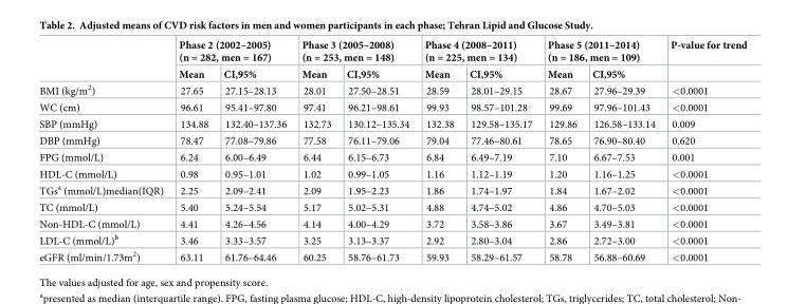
<table><thead><tr><td rowspan="2"></td><td colspan="2">Phase 2 (2002–2005) (n = 282, men = 167)</td><td colspan="2">Phase 3 (2005–2008) (n = 253, men = 148)</td><td colspan="2">Phase 4 (2008–2011) (n = 225, men = 134)</td><td colspan="2">Phase 5 (2011–2014) (n = 186, men = 109)</td><td rowspan="2">P-value for trend</td></tr><tr><td>Mean</td><td>CI,95%</td><td>Mean</td><td>CI,95%</td><td>Mean</td><td>CI,95%</td><td>Mean</td><td>CI,95%</td></tr></thead><tbody><tr><td>BMI (kg/m<sup>2</sup>)</td><td>27.65</td><td>27.15–28.13</td><td>28.01</td><td>27.50–28.51</td><td>28.59</td><td>28.01–29.15</td><td>28.67</td><td>27.96–29.39</td><td>&lt;0.0001</td></tr><tr><td>WC (cm)</td><td>96.61</td><td>95.41–97.80</td><td>97.41</td><td>96.21–98.61</td><td>99.93</td><td>98.57–101.28</td><td>99.69</td><td>97.96–101.43</td><td>&lt;0.0001</td></tr><tr><td>SBP (mmHg)</td><td>134.88</td><td>132.40–137.36</td><td>132.73</td><td>130.12–135.34</td><td>132.38</td><td>129.58–135.17</td><td>129.86</td><td>126.58–133.14</td><td>0.009</td></tr><tr><td>DBP (mmHg)</td><td>78.47</td><td>77.08–79.86</td><td>77.58</td><td>76.11–79.06</td><td>79.04</td><td>77.46–80.61</td><td>78.65</td><td>76.90–80.40</td><td>0.620</td></tr><tr><td>FPG (mmol/L)</td><td>6.24</td><td>6.00–6.49</td><td>6.44</td><td>6.15–6.73</td><td>6.84</td><td>6.49–7.19</td><td>7.10</td><td>6.67–7.53</td><td>0.001</td></tr><tr><td>HDL-C (mmol/L)</td><td>0.98</td><td>0.95–1.01</td><td>1.02</td><td>0.99–1.05</td><td>1.16</td><td>1.12–1.19</td><td>1.20</td><td>1.16–1.25</td><td>&lt;0.0001</td></tr><tr><td>TGs<sup>a</sup> (mmol/L)median(IQR)</td><td>2.25</td><td>2.09–2.41</td><td>2.09</td><td>1.95–2.23</td><td>1.86</td><td>1.74–1.97</td><td>1.84</td><td>1.67–2.02</td><td>&lt;0.0001</td></tr><tr><td>TC (mmol/L)</td><td>5.40</td><td>5.24–5.54</td><td>5.17</td><td>5.02–5.31</td><td>4.88</td><td>4.74–5.02</td><td>4.86</td><td>4.70–5.03</td><td>&lt;0.0001</td></tr><tr><td>Non-HDL-C (mmol/L)</td><td>4.41</td><td>4.26–4.56</td><td>4.14</td><td>4.00–4.29</td><td>3.72</td><td>3.58–3.86</td><td>3.67</td><td>3.49–3.81</td><td>&lt;0.0001</td></tr><tr><td>LDL-C (mmol/L)<sup>b</sup></td><td>3.46</td><td>3.33–3.57</td><td>3.25</td><td>3.13–3.37</td><td>2.92</td><td>2.80–3.04</td><td>2.86</td><td>2.72–3.00</td><td>&lt;0.0001</td></tr><tr><td>eGFR (ml/min/1.73m<sup>2</sup>)</td><td>63.11</td><td>61.76–64.46</td><td>60.25</td><td>58.76–61.73</td><td>59.93</td><td>58.29–61.57</td><td>58.78</td><td>56.88–60.69</td><td>&lt;0.0001</td></tr></tbody></table>